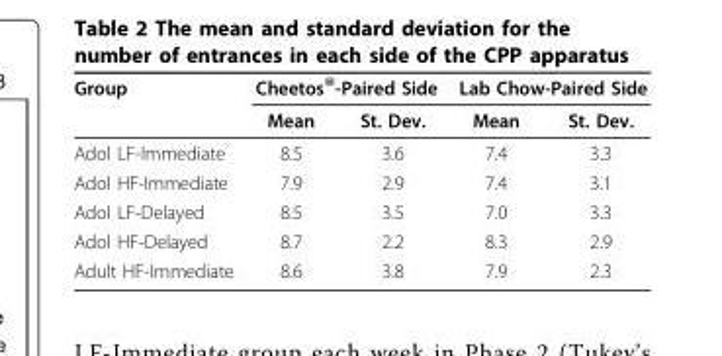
<table><thead><tr><td rowspan="2">Group</td><td colspan="2">Cheetos<sup>®</sup>-Paired Side</td><td colspan="2">Lab Chow-Paired Side</td></tr><tr><td>Mean</td><td>St. Dev.</td><td>Mean</td><td>St. Dev.</td></tr></thead><tbody><tr><td>Adol LF-Immediate</td><td>8.5</td><td>3.6</td><td>7.4</td><td>3.3</td></tr><tr><td>Adol HF-Immediate</td><td>7.9</td><td>2.9</td><td>7.4</td><td>3.1</td></tr><tr><td>Adol LF-Delayed</td><td>8.5</td><td>3.5</td><td>7.0</td><td>3.3</td></tr><tr><td>Adol HF-Delayed</td><td>8.7</td><td>2.2</td><td>8.3</td><td>2.9</td></tr><tr><td>Adult HF-Immediate</td><td>8.6</td><td>3.8</td><td>7.9</td><td>2.3</td></tr></tbody></table>